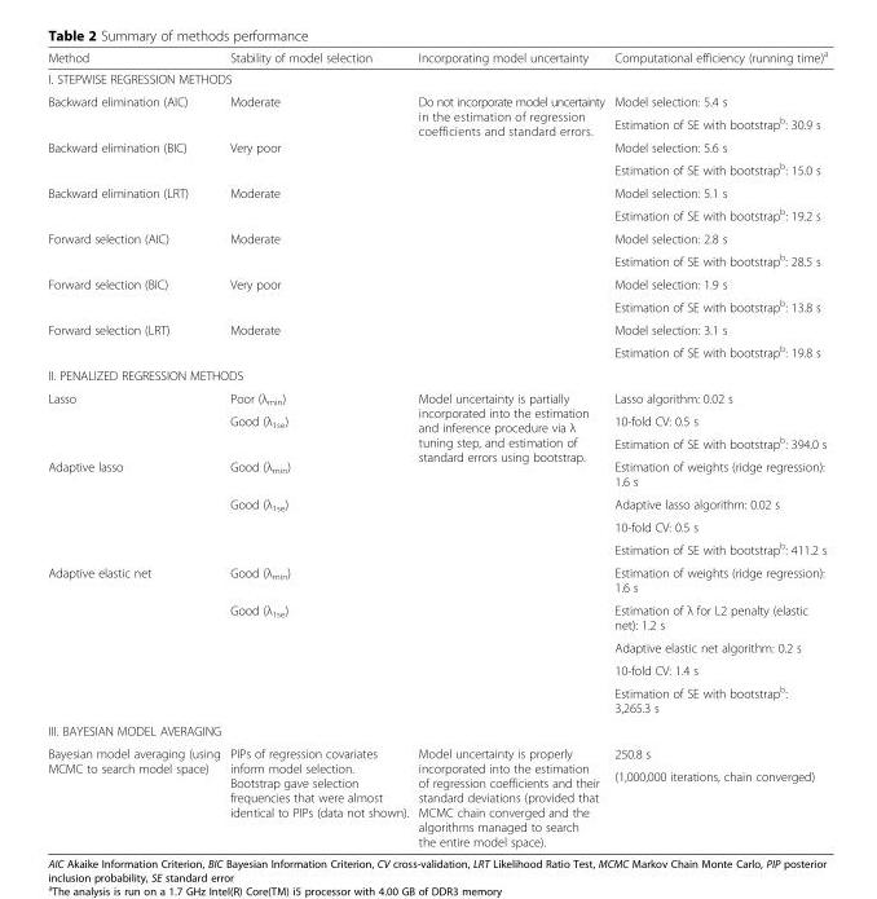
<table><thead><tr><td>Method</td><td>Stability of model selection</td><td>Incorporating model uncertainty</td><td>Computational efficiency (running time)<sup>a</sup></td></tr></thead><tbody><tr><td colspan="4">I. STEPWISE REGRESSION METHODS</td></tr><tr><td rowspan="2">Backward elimination (AIC)</td><td rowspan="2">Moderate</td><td rowspan="12">Do not incorporate model uncertainty in the estimation of regression coefficients and standard errors.</td><td>Model selection: 5.4 s</td></tr><tr><td>Estimation of SE with bootstrap<sup>b</sup>: 30.9 s</td></tr><tr><td rowspan="2">Backward elimination (BIC)</td><td rowspan="2">Very poor</td><td>Model selection: 5.6 s</td></tr><tr><td>Estimation of SE with bootstrap<sup>b</sup>: 15.0 s</td></tr><tr><td rowspan="2">Backward elimination (LRT)</td><td rowspan="2">Moderate</td><td>Model selection: 5.1 s</td></tr><tr><td>Estimation of SE with bootstrap<sup>b</sup>: 19.2 s</td></tr><tr><td rowspan="2">Forward selection (AIC)</td><td rowspan="2">Moderate</td><td>Model selection: 2.8 s</td></tr><tr><td>Estimation of SE with bootstrap<sup>b</sup>: 28.5 s</td></tr><tr><td rowspan="2">Forward selection (BIC)</td><td rowspan="2">Very poor</td><td>Model selection: 1.9 s</td></tr><tr><td>Estimation of SE with bootstrap<sup>b</sup>: 13.8 s</td></tr><tr><td rowspan="2">Forward selection (LRT)</td><td rowspan="2">Moderate</td><td>Model selection: 3.1 s</td></tr><tr><td>Estimation of SE with bootstrap<sup>b</sup>: 19.8 s</td></tr><tr><td colspan="4">II. PENALIZED REGRESSION METHODS</td></tr><tr><td rowspan="3">Lasso</td><td>Poor (λ<sub>min</sub>)</td><td rowspan="12">Model uncertainty is partially incorporated into the estimation and inference procedure via λ tuning step, and estimation of standard errors using bootstrap.</td><td>Lasso algorithm: 0.02 s</td></tr><tr><td rowspan="2">Good (λ<sub>1se</sub>)</td><td>10-fold CV: 0.5 s</td></tr><tr><td>Estimation of SE with bootstrap<sup>b</sup>: 394.0 s</td></tr><tr><td rowspan="4">Adaptive lasso</td><td>Good (λ<sub>min</sub>)</td><td>Estimation of weights (ridge regression): 1.6 s</td></tr><tr><td rowspan="3">Good (λ<sub>1se</sub>)</td><td>Adaptive lasso algorithm: 0.02 s</td></tr><tr><td>10-fold CV: 0.5 s</td></tr><tr><td>Estimation of SE with bootstrap<sup>b</sup>: 411.2 s</td></tr><tr><td rowspan="5">Adaptive elastic net</td><td>Good (λ<sub>min</sub>)</td><td>Estimation of weights (ridge regression): 1.6 s</td></tr><tr><td rowspan="4">Good (λ<sub>1se</sub>)</td><td>Estimation of λ for L2 penalty (elastic net): 1.2 s</td></tr><tr><td>Adaptive elastic net algorithm: 0.2 s</td></tr><tr><td>10-fold CV: 1.4 s</td></tr><tr><td>Estimation of SE with bootstrap<sup>b</sup>: 3,265.3 s</td></tr><tr><td colspan="4">III. BAYESIAN MODEL AVERAGING</td></tr><tr><td rowspan="2">Bayesian model averaging (using MCMC to search model space)</td><td rowspan="2">PIPs of regression covariates inform model selection. Bootstrap gave selection frequencies that were almost identical to PIPs (data not shown).</td><td rowspan="2">Model uncertainty is properly incorporated into the estimation of regression coefficients and their standard deviations (provided that MCMC chain converged and the algorithms managed to search the entire model space).</td><td>250.8 s</td></tr><tr><td>(1,000,000 iterations, chain converged)</td></tr></tbody></table>